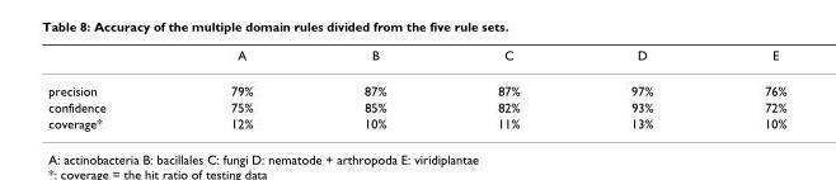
<table><thead><tr><td></td><td>A</td><td>B</td><td>C</td><td>D</td><td>E</td></tr></thead><tbody><tr><td>precision</td><td>79%</td><td>87%</td><td>87%</td><td>97%</td><td>76%</td></tr><tr><td>confidence</td><td>75%</td><td>85%</td><td>82%</td><td>93%</td><td>72%</td></tr><tr><td>coverage*</td><td>12%</td><td>10%</td><td>11%</td><td>13%</td><td>10%</td></tr></tbody></table>